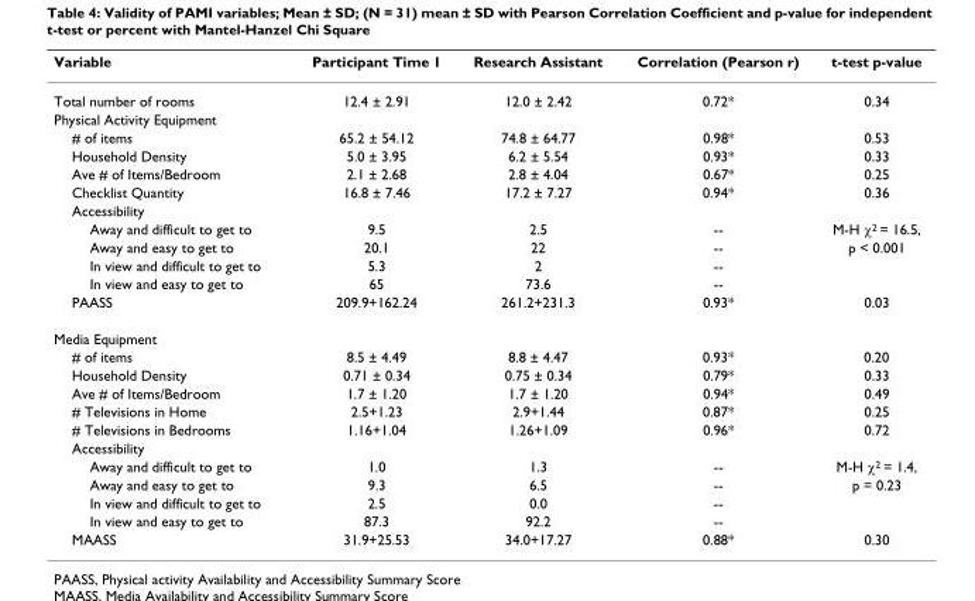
<table><thead><tr><td>Variable</td><td>Participant Time 1</td><td>Research Assistant</td><td>Correlation (Pearson r)</td><td>t-test p-value</td></tr></thead><tbody><tr><td>Total number of rooms</td><td>12.4 ± 2.91</td><td>12.0 ± 2.42</td><td>0.72*</td><td>0.34</td></tr><tr><td colspan="5">Physical Activity Equipment</td></tr><tr><td># of items</td><td>65.2 ± 54.12</td><td>74.8 ± 64.77</td><td>0.98*</td><td>0.53</td></tr><tr><td>Household Density</td><td>5.0 ± 3.95</td><td>6.2 ± 5.54</td><td>0.93*</td><td>0.33</td></tr><tr><td>Ave # of Items/Bedroom</td><td>2.1 ± 2.68</td><td>2.8 ± 4.04</td><td>0.67*</td><td>0.25</td></tr><tr><td>Checklist Quantity</td><td>16.8 ± 7.46</td><td>17.2 ± 7.27</td><td>0.94*</td><td>0.36</td></tr><tr><td colspan="5">Accessibility</td></tr><tr><td>Away and difficult to get to</td><td>9.5</td><td>2.5</td><td>--</td><td>M-H χ<sup>2</sup> = 16.5,</td></tr><tr><td>Away and easy to get to</td><td>20.1</td><td>22</td><td>--</td><td>p &lt; 0.001</td></tr><tr><td>In view and difficult to get to</td><td>5.3</td><td>2</td><td>--</td><td></td></tr><tr><td>In view and easy to get to</td><td>65</td><td>73.6</td><td>--</td><td></td></tr><tr><td>PAASS</td><td>209.9+162.24</td><td>261.2+231.3</td><td>0.93*</td><td>0.03</td></tr><tr><td colspan="5">Media Equipment</td></tr><tr><td># of items</td><td>8.5 ± 4.49</td><td>8.8 ± 4.47</td><td>0.93*</td><td>0.20</td></tr><tr><td>Household Density</td><td>0.71 ± 0.34</td><td>0.75 ± 0.34</td><td>0.79*</td><td>0.33</td></tr><tr><td>Ave # of Items/Bedroom</td><td>1.7 ± 1.20</td><td>1.7 ± 1.20</td><td>0.94*</td><td>0.49</td></tr><tr><td># Televisions in Home</td><td>2.5+1.23</td><td>2.9+1.44</td><td>0.87*</td><td>0.25</td></tr><tr><td># Televisions in Bedrooms</td><td>1.16+1.04</td><td>1.26+1.09</td><td>0.96*</td><td>0.72</td></tr><tr><td colspan="5">Accessibility</td></tr><tr><td>Away and difficult to get to</td><td>1.0</td><td>1.3</td><td>--</td><td>M-H χ<sup>2</sup> = 1.4,</td></tr><tr><td>Away and easy to get to</td><td>9.3</td><td>6.5</td><td>--</td><td>p = 0.23</td></tr><tr><td>In view and difficult to get to</td><td>2.5</td><td>0.0</td><td>--</td><td></td></tr><tr><td>In view and easy to get to</td><td>87.3</td><td>92.2</td><td>--</td><td></td></tr><tr><td>MAASS</td><td>31.9+25.53</td><td>34.0+17.27</td><td>0.88*</td><td>0.30</td></tr></tbody></table>